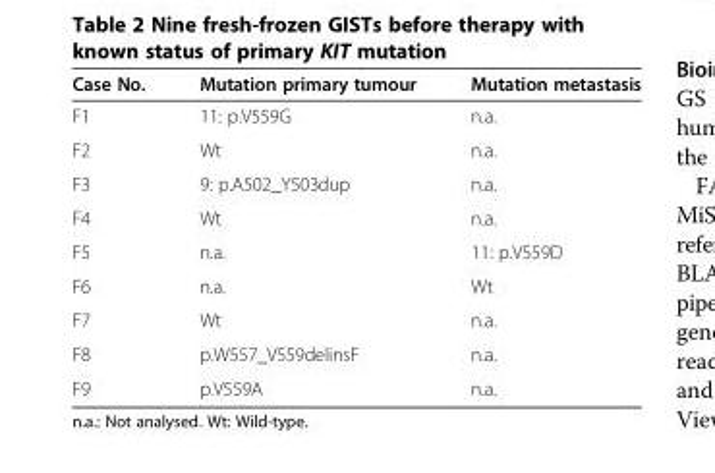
<table><thead><tr><td>Case No.</td><td>Mutation primary tumour</td><td>Mutation metastasis</td></tr></thead><tbody><tr><td>F1</td><td>11: p.V559G</td><td>n.a.</td></tr><tr><td>F2</td><td>Wt</td><td>n.a.</td></tr><tr><td>F3</td><td>9: p.A502_Y503dup</td><td>n.a.</td></tr><tr><td>F4</td><td>Wt</td><td>n.a.</td></tr><tr><td>F5</td><td>n.a.</td><td>11: p.V559D</td></tr><tr><td>F6</td><td>n.a.</td><td>Wt</td></tr><tr><td>F7</td><td>Wt</td><td>n.a.</td></tr><tr><td>F8</td><td>p.W557_V559delinsF</td><td>n.a.</td></tr><tr><td>F9</td><td>p.V559A</td><td>n.a.</td></tr></tbody></table>